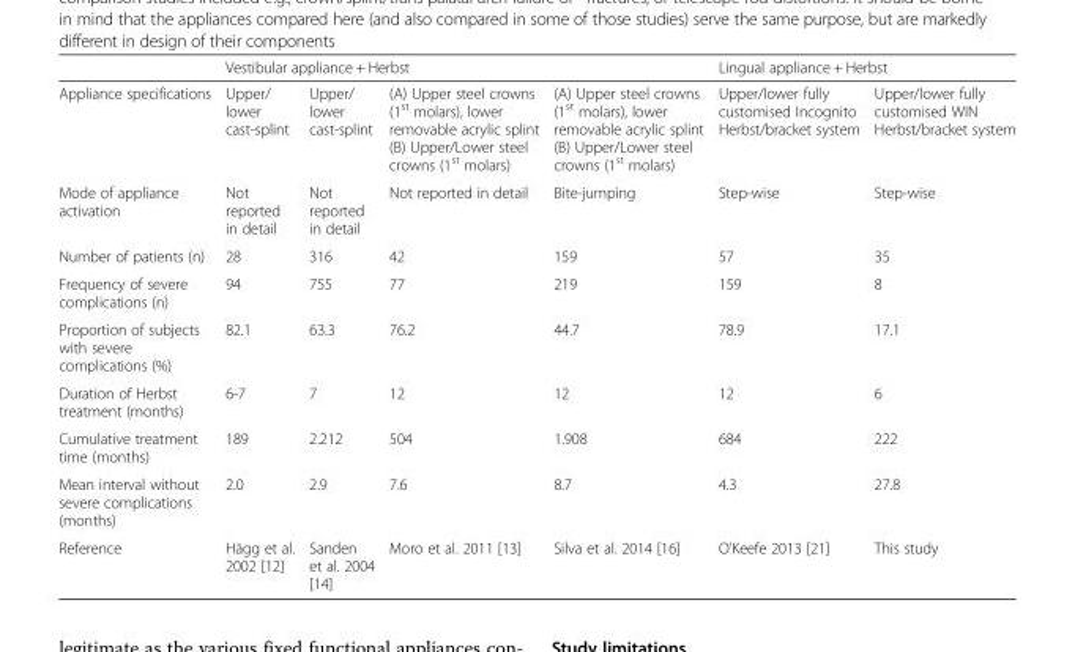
<table><thead><tr><td rowspan="2">Appliance specifications</td><td colspan="4">Vestibular appliance + Herbst</td><td colspan="2">Lingual appliance + Herbst</td></tr><tr><td>Upper/ lower cast-splint</td><td>Upper/ lower cast-splint</td><td>(A) Upper steel crowns (1<sup>st</sup> molars), lower removable acrylic splint (B) Upper/Lower steel crowns (1<sup>st</sup> molars)</td><td>(A) Upper steel crowns (1<sup>st</sup> molars), lower removable acrylic splint (B) Upper/Lower steel crowns (1<sup>st</sup> molars)</td><td>Upper/lower fully customised Incognito Herbst/bracket system</td><td>Upper/lower fully customised WIN Herbst/bracket system</td></tr></thead><tbody><tr><td>Mode of appliance activation</td><td>Not reported in detail</td><td>Not reported in detail</td><td>Not reported in detail</td><td>Bite-jumping</td><td>Step-wise</td><td>Step-wise</td></tr><tr><td>Number of patients (n)</td><td>28</td><td>316</td><td>42</td><td>159</td><td>57</td><td>35</td></tr><tr><td>Frequency of severe complications (n)</td><td>94</td><td>755</td><td>77</td><td>219</td><td>159</td><td>8</td></tr><tr><td>Proportion of subjects with severe complications (%)</td><td>82.1</td><td>63.3</td><td>76.2</td><td>44.7</td><td>78.9</td><td>17.1</td></tr><tr><td>Duration of Herbst treatment (months)</td><td>6-7</td><td>7</td><td>12</td><td>12</td><td>12</td><td>6</td></tr><tr><td>Cumulative treatment time (months)</td><td>189</td><td>2.212</td><td>504</td><td>1.908</td><td>684</td><td>222</td></tr><tr><td>Mean interval without severe complications (months)</td><td>2.0</td><td>2.9</td><td>7.6</td><td>8.7</td><td>4.3</td><td>27.8</td></tr><tr><td>Reference</td><td>Hägg et al. 2002 [12]</td><td>Sanden et al. 2004 [14]</td><td>Moro et al. 2011 [13]</td><td>Silva et al. 2014 [16]</td><td>O’Keefe 2013 [21]</td><td>This study</td></tr></tbody></table>